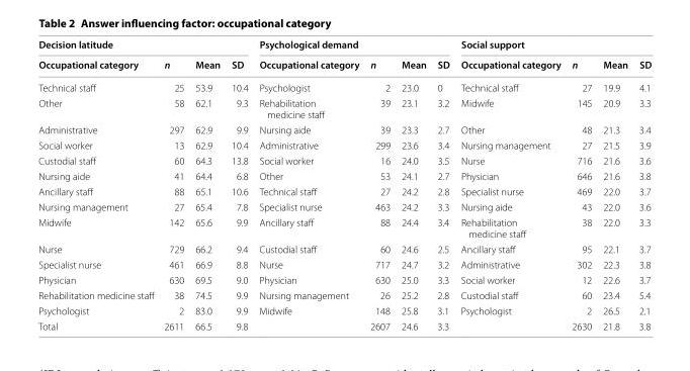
<table><thead><tr><td colspan="4">Decision latitude</td><td colspan="4">Psychological demand</td><td colspan="4">Social support</td></tr><tr><td>Occupational category</td><td>n</td><td>Mean</td><td>SD</td><td>Occupational category</td><td>n</td><td>Mean</td><td>SD</td><td>Occupational category</td><td>n</td><td>Mean</td><td>SD</td></tr></thead><tbody><tr><td>Technical staff</td><td>25</td><td>53.9</td><td>10.4</td><td>Psychologist</td><td>2</td><td>23.0</td><td>0</td><td>Technical staff</td><td>27</td><td>19.9</td><td>4.1</td></tr><tr><td>Other</td><td>58</td><td>62.1</td><td>9.3</td><td>Rehabilitation medicine staff</td><td>39</td><td>23.1</td><td>3.2</td><td>Midwife</td><td>145</td><td>20.9</td><td>3.3</td></tr><tr><td>Administrative</td><td>297</td><td>62.9</td><td>9.9</td><td>Nursing aide</td><td>39</td><td>23.3</td><td>2.7</td><td>Other</td><td>48</td><td>21.3</td><td>3.4</td></tr><tr><td>Social worker</td><td>13</td><td>62.9</td><td>10.4</td><td>Administrative</td><td>299</td><td>23.6</td><td>3.4</td><td>Nursing management</td><td>27</td><td>21.5</td><td>3.9</td></tr><tr><td>Custodial staff</td><td>60</td><td>64.3</td><td>13.8</td><td>Social worker</td><td>16</td><td>24.0</td><td>3.5</td><td>Nurse</td><td>716</td><td>21.6</td><td>3.6</td></tr><tr><td>Nursing aide</td><td>41</td><td>64.4</td><td>6.8</td><td>Other</td><td>53</td><td>24.1</td><td>2.7</td><td>Physician</td><td>646</td><td>21.6</td><td>3.8</td></tr><tr><td>Ancillary staff</td><td>88</td><td>65.1</td><td>10.6</td><td>Technical staff</td><td>27</td><td>24.2</td><td>2.8</td><td>Specialist nurse</td><td>469</td><td>22.0</td><td>3.7</td></tr><tr><td>Nursing management</td><td>27</td><td>65.4</td><td>7.8</td><td>Specialist nurse</td><td>463</td><td>24.2</td><td>3.3</td><td>Nursing aide</td><td>43</td><td>22.0</td><td>3.6</td></tr><tr><td>Midwife</td><td>142</td><td>65.6</td><td>9.9</td><td>Ancillary staff</td><td>88</td><td>24.4</td><td>3.4</td><td>Rehabilitation medicine staff</td><td>38</td><td>22.0</td><td>3.3</td></tr><tr><td>Nurse</td><td>729</td><td>66.2</td><td>9.4</td><td>Custodial staff</td><td>60</td><td>24.6</td><td>2.5</td><td>Ancillary staff</td><td>95</td><td>22.1</td><td>3.7</td></tr><tr><td>Specialist nurse</td><td>461</td><td>66.9</td><td>8.8</td><td>Nurse</td><td>717</td><td>24.7</td><td>3.2</td><td>Administrative</td><td>302</td><td>22.3</td><td>3.8</td></tr><tr><td>Physician</td><td>630</td><td>69.5</td><td>9.0</td><td>Physician</td><td>630</td><td>25.0</td><td>3.3</td><td>Social worker</td><td>12</td><td>22.6</td><td>3.7</td></tr><tr><td>Rehabilitation medicine staff</td><td>38</td><td>74.5</td><td>9.9</td><td>Nursing management</td><td>26</td><td>25.2</td><td>2.8</td><td>Custodial staff</td><td>60</td><td>23.4</td><td>5.4</td></tr><tr><td>Psychologist</td><td>2</td><td>83.0</td><td>9.9</td><td>Midwife</td><td>148</td><td>25.8</td><td>3.1</td><td>Psychologist</td><td>2</td><td>26.5</td><td>2.1</td></tr><tr><td>Total</td><td>2611</td><td>66.5</td><td>9.8</td><td></td><td>2607</td><td>24.6</td><td>3.3</td><td></td><td>2630</td><td>21.8</td><td>3.8</td></tr></tbody></table>